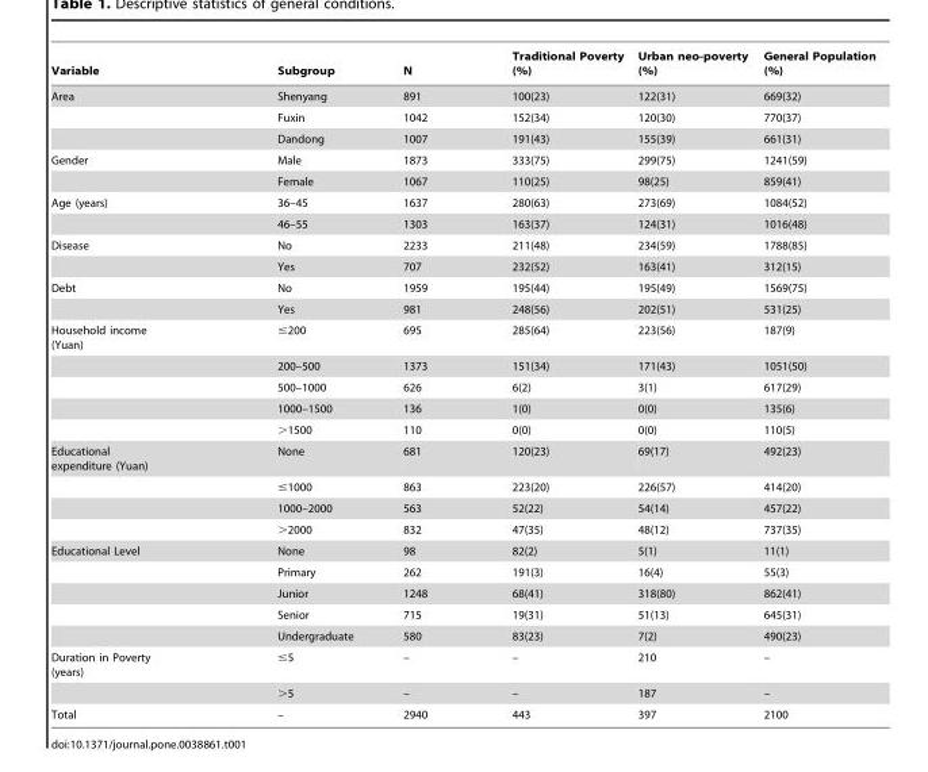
<table><thead><tr><td>Variable</td><td>Subgroup</td><td>N</td><td>Traditional Poverty (%)</td><td>Urban neo-poverty (%)</td><td>General Population (%)</td></tr></thead><tbody><tr><td rowspan="3">Area</td><td>Shenyang</td><td>891</td><td>100(23)</td><td>122(31)</td><td>669(32)</td></tr><tr><td>Fuxin</td><td>1042</td><td>152(34)</td><td>120(30)</td><td>770(37)</td></tr><tr><td>Dandong</td><td>1007</td><td>191(43)</td><td>155(39)</td><td>661(31)</td></tr><tr><td rowspan="2">Gender</td><td>Male</td><td>1873</td><td>333(75)</td><td>299(75)</td><td>1241(59)</td></tr><tr><td>Female</td><td>1067</td><td>110(25)</td><td>98(25)</td><td>859(41)</td></tr><tr><td rowspan="2">Age (years)</td><td>36–45</td><td>1637</td><td>280(63)</td><td>273(69)</td><td>1084(52)</td></tr><tr><td>46–55</td><td>1303</td><td>163(37)</td><td>124(31)</td><td>1016(48)</td></tr><tr><td rowspan="2">Disease</td><td>No</td><td>2233</td><td>211(48)</td><td>234(59)</td><td>1788(85)</td></tr><tr><td>Yes</td><td>707</td><td>232(52)</td><td>163(41)</td><td>312(15)</td></tr><tr><td rowspan="2">Debt</td><td>No</td><td>1959</td><td>195(44)</td><td>195(49)</td><td>1569(75)</td></tr><tr><td>Yes</td><td>981</td><td>248(56)</td><td>202(51)</td><td>531(25)</td></tr><tr><td rowspan="5">Household income (Yuan)</td><td>≤200</td><td>695</td><td>285(64)</td><td>223(56)</td><td>187(9)</td></tr><tr><td>200–500</td><td>1373</td><td>151(34)</td><td>171(43)</td><td>1051(50)</td></tr><tr><td>500–1000</td><td>626</td><td>6(2)</td><td>3(1)</td><td>617(29)</td></tr><tr><td>1000–1500</td><td>136</td><td>1(0)</td><td>0(0)</td><td>135(6)</td></tr><tr><td>&gt;1500</td><td>110</td><td>0(0)</td><td>0(0)</td><td>110(5)</td></tr><tr><td rowspan="4">Educational expenditure (Yuan)</td><td>None</td><td>681</td><td>120(23)</td><td>69(17)</td><td>492(23)</td></tr><tr><td>≤1000</td><td>863</td><td>223(20)</td><td>226(57)</td><td>414(20)</td></tr><tr><td>1000–2000</td><td>563</td><td>52(22)</td><td>54(14)</td><td>457(22)</td></tr><tr><td>&gt;2000</td><td>832</td><td>47(35)</td><td>48(12)</td><td>737(35)</td></tr><tr><td rowspan="5">Educational Level</td><td>None</td><td>98</td><td>82(2)</td><td>5(1)</td><td>11(1)</td></tr><tr><td>Primary</td><td>262</td><td>191(3)</td><td>16(4)</td><td>55(3)</td></tr><tr><td>Junior</td><td>1248</td><td>68(41)</td><td>318(80)</td><td>862(41)</td></tr><tr><td>Senior</td><td>715</td><td>19(31)</td><td>51(13)</td><td>645(31)</td></tr><tr><td>Undergraduate</td><td>580</td><td>83(23)</td><td>7(2)</td><td>490(23)</td></tr><tr><td rowspan="2">Duration in Poverty (years)</td><td>≤5</td><td>–</td><td>–</td><td>210</td><td>–</td></tr><tr><td>&gt;5</td><td>–</td><td>–</td><td>187</td><td>–</td></tr><tr><td>Total</td><td>–</td><td>2940</td><td>443</td><td>397</td><td>2100</td></tr></tbody></table>